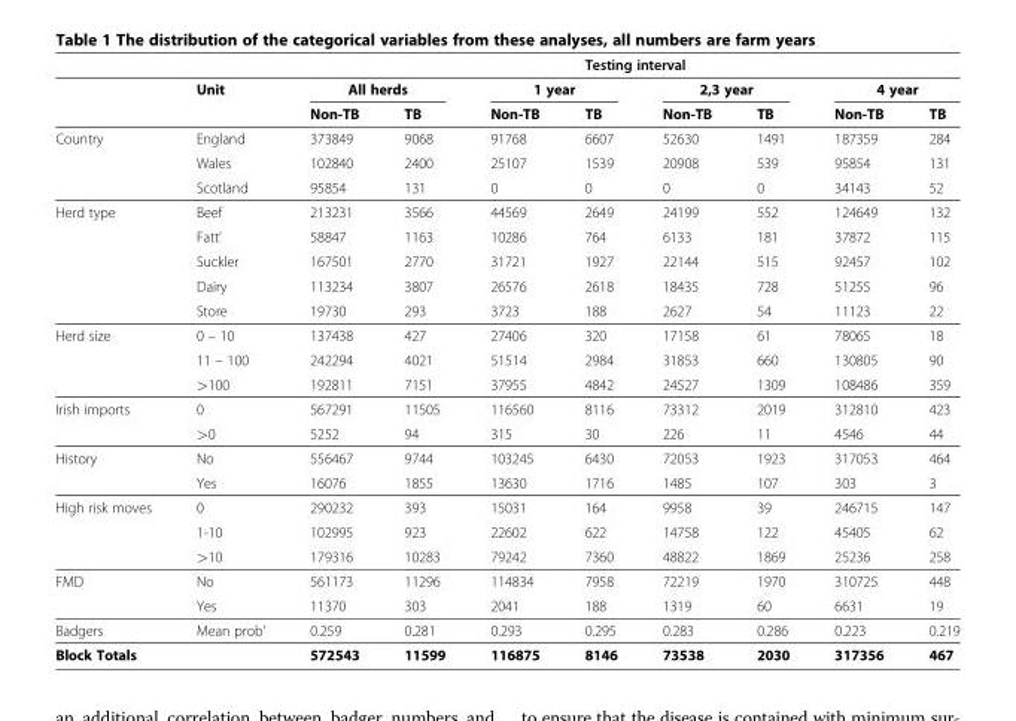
<table><thead><tr><td rowspan="3"></td><td rowspan="3">Unit</td><td colspan="8">Testing interval</td></tr><tr><td colspan="2">All herds</td><td colspan="2">1 year</td><td colspan="2">2,3 year</td><td colspan="2">4 year</td></tr><tr><td>Non-TB</td><td>TB</td><td>Non-TB</td><td>TB</td><td>Non-TB</td><td>TB</td><td>Non-TB</td><td>TB</td></tr></thead><tbody><tr><td rowspan="3">Country</td><td>England</td><td>373849</td><td>9068</td><td>91768</td><td>6607</td><td>52630</td><td>1491</td><td>187359</td><td>284</td></tr><tr><td>Wales</td><td>102840</td><td>2400</td><td>25107</td><td>1539</td><td>20908</td><td>539</td><td>95854</td><td>131</td></tr><tr><td>Scotland</td><td>95854</td><td>131</td><td>0</td><td>0</td><td>0</td><td>0</td><td>34143</td><td>52</td></tr><tr><td rowspan="5">Herd type</td><td>Beef</td><td>213231</td><td>3566</td><td>44569</td><td>2649</td><td>24199</td><td>552</td><td>124649</td><td>132</td></tr><tr><td>Fatt’</td><td>58847</td><td>1163</td><td>10286</td><td>764</td><td>6133</td><td>181</td><td>37872</td><td>115</td></tr><tr><td>Suckler</td><td>167501</td><td>2770</td><td>31721</td><td>1927</td><td>22144</td><td>515</td><td>92457</td><td>102</td></tr><tr><td>Dairy</td><td>113234</td><td>3807</td><td>26576</td><td>2618</td><td>18435</td><td>728</td><td>51255</td><td>96</td></tr><tr><td>Store</td><td>19730</td><td>293</td><td>3723</td><td>188</td><td>2627</td><td>54</td><td>11123</td><td>22</td></tr><tr><td rowspan="3">Herd size</td><td>0 – 10</td><td>137438</td><td>427</td><td>27406</td><td>320</td><td>17158</td><td>61</td><td>78065</td><td>18</td></tr><tr><td>11 – 100</td><td>242294</td><td>4021</td><td>51514</td><td>2984</td><td>31853</td><td>660</td><td>130805</td><td>90</td></tr><tr><td>&gt;100</td><td>192811</td><td>7151</td><td>37955</td><td>4842</td><td>24527</td><td>1309</td><td>108486</td><td>359</td></tr><tr><td rowspan="2">Irish imports</td><td>0</td><td>567291</td><td>11505</td><td>116560</td><td>8116</td><td>73312</td><td>2019</td><td>312810</td><td>423</td></tr><tr><td>&gt;0</td><td>5252</td><td>94</td><td>315</td><td>30</td><td>226</td><td>11</td><td>4546</td><td>44</td></tr><tr><td rowspan="2">History</td><td>No</td><td>556467</td><td>9744</td><td>103245</td><td>6430</td><td>72053</td><td>1923</td><td>317053</td><td>464</td></tr><tr><td>Yes</td><td>16076</td><td>1855</td><td>13630</td><td>1716</td><td>1485</td><td>107</td><td>303</td><td>3</td></tr><tr><td rowspan="3">High risk moves</td><td>0</td><td>290232</td><td>393</td><td>15031</td><td>164</td><td>9958</td><td>39</td><td>246715</td><td>147</td></tr><tr><td>1-10</td><td>102995</td><td>923</td><td>22602</td><td>622</td><td>14758</td><td>122</td><td>45405</td><td>62</td></tr><tr><td>&gt;10</td><td>179316</td><td>10283</td><td>79242</td><td>7360</td><td>48822</td><td>1869</td><td>25236</td><td>258</td></tr><tr><td rowspan="2">FMD</td><td>No</td><td>561173</td><td>11296</td><td>114834</td><td>7958</td><td>72219</td><td>1970</td><td>310725</td><td>448</td></tr><tr><td>Yes</td><td>11370</td><td>303</td><td>2041</td><td>188</td><td>1319</td><td>60</td><td>6631</td><td>19</td></tr><tr><td>Badgers</td><td>Mean prob&#x27;</td><td>0.259</td><td>0.281</td><td>0.293</td><td>0.295</td><td>0.283</td><td>0.286</td><td>0.223</td><td>0.219</td></tr><tr><td colspan="2">Block Totals</td><td>572543</td><td>11599</td><td>116875</td><td>8146</td><td>73538</td><td>2030</td><td>317356</td><td>467</td></tr></tbody></table>